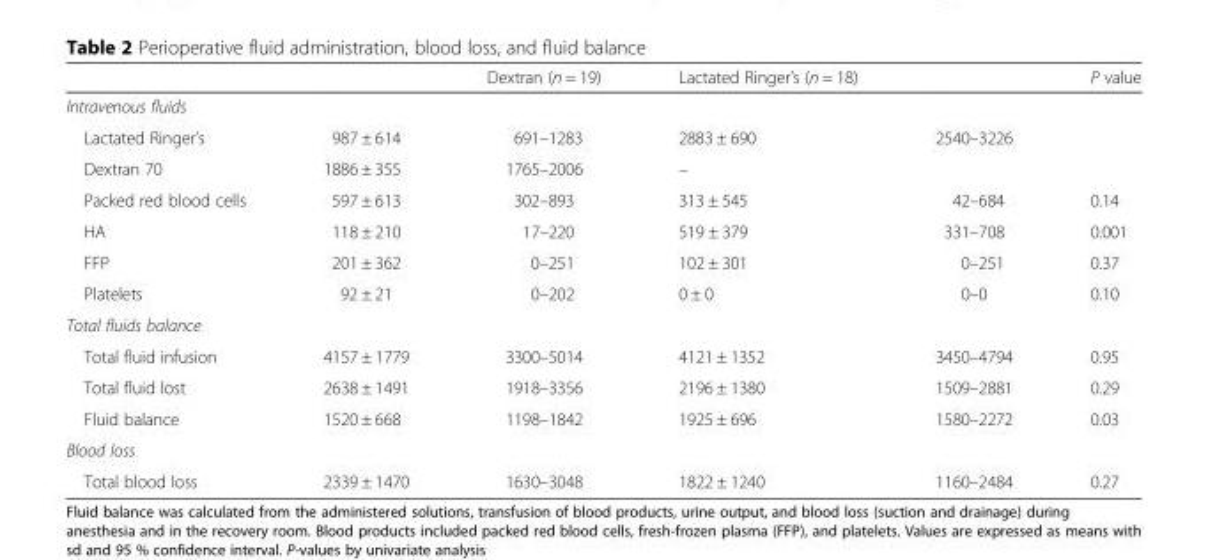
<table><thead><tr><td></td><td></td><td>Dextran (n = 19)</td><td>Lactated Ringer’s (n = 18)</td><td></td><td>P value</td></tr></thead><tbody><tr><td colspan="6">Intravenous fluids</td></tr><tr><td>Lactated Ringer’s</td><td>987 ± 614</td><td>691–1283</td><td>2883 ± 690</td><td>2540–3226</td><td></td></tr><tr><td>Dextran 70</td><td>1886 ± 355</td><td>1765–2006</td><td>–</td><td></td><td></td></tr><tr><td>Packed red blood cells</td><td>597 ± 613</td><td>302–893</td><td>313 ± 545</td><td>42–684</td><td>0.14</td></tr><tr><td>HA</td><td>118 ± 210</td><td>17–220</td><td>519 ± 379</td><td>331–708</td><td>0.001</td></tr><tr><td>FFP</td><td>201 ± 362</td><td>0–251</td><td>102 ± 301</td><td>0–251</td><td>0.37</td></tr><tr><td>Platelets</td><td>92 ± 21</td><td>0–202</td><td>0 ± 0</td><td>0–0</td><td>0.10</td></tr><tr><td colspan="6">Total fluids balance</td></tr><tr><td>Total fluid infusion</td><td>4157 ± 1779</td><td>3300–5014</td><td>4121 ± 1352</td><td>3450–4794</td><td>0.95</td></tr><tr><td>Total fluid lost</td><td>2638 ± 1491</td><td>1918–3356</td><td>2196 ± 1380</td><td>1509–2881</td><td>0.29</td></tr><tr><td>Fluid balance</td><td>1520 ± 668</td><td>1198–1842</td><td>1925 ± 696</td><td>1580–2272</td><td>0.03</td></tr><tr><td colspan="6">Blood loss</td></tr><tr><td>Total blood loss</td><td>2339 ± 1470</td><td>1630–3048</td><td>1822 ± 1240</td><td>1160–2484</td><td>0.27</td></tr></tbody></table>